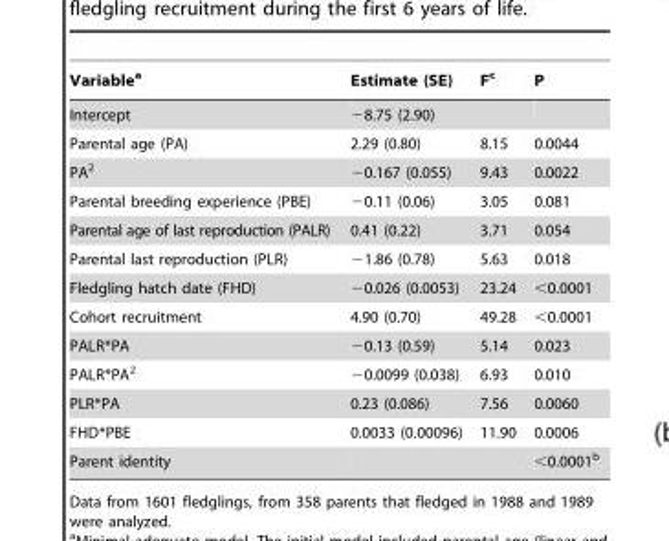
<table><thead><tr><td>Variable<sup>a</sup></td><td>Estimate (SE)</td><td>F<sup>c</sup></td><td>P</td></tr></thead><tbody><tr><td>Intercept</td><td>−8.75 (2.90)</td><td></td><td></td></tr><tr><td>Parental age (PA)</td><td>2.29 (0.80)</td><td>8.15</td><td>0.0044</td></tr><tr><td>PA<sup>2</sup></td><td>−0.167 (0.055)</td><td>9.43</td><td>0.0022</td></tr><tr><td>Parental breeding experience (PBE)</td><td>−0.11 (0.06)</td><td>3.05</td><td>0.081</td></tr><tr><td>Parental age of last reproduction (PALR)</td><td>0.41 (0.22)</td><td>3.71</td><td>0.054</td></tr><tr><td>Parental last reproduction (PLR)</td><td>−1.86 (0.78)</td><td>5.63</td><td>0.018</td></tr><tr><td>Fledgling hatch date (FHD)</td><td>−0.026 (0.0053)</td><td>23.24</td><td>&lt;0.0001</td></tr><tr><td>Cohort recruitment</td><td>4.90 (0.70)</td><td>49.28</td><td>&lt;0.0001</td></tr><tr><td>PALR*PA</td><td>−0.13 (0.59)</td><td>5.14</td><td>0.023</td></tr><tr><td>PALR*PA<sup>2</sup></td><td>−0.0099 (0.038)</td><td>6.93</td><td>0.010</td></tr><tr><td>PLR*PA</td><td>0.23 (0.086)</td><td>7.56</td><td>0.0060</td></tr><tr><td>FHD*PBE</td><td>0.0033 (0.00096)</td><td>11.90</td><td>0.0006</td></tr><tr><td>Parent identity</td><td></td><td></td><td>&lt;0.0001<sup>b</sup></td></tr></tbody></table>